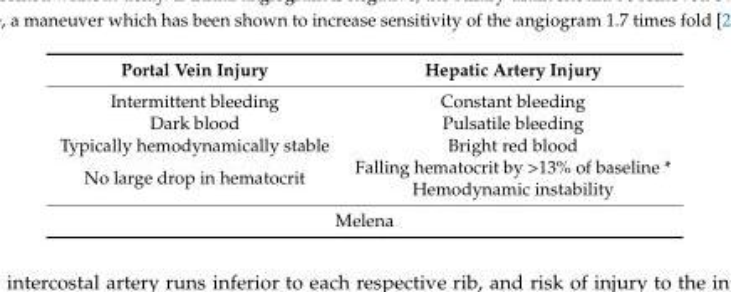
<table><thead><tr><td>Portal Vein Injury</td><td>Hepatic Artery Injury</td></tr></thead><tbody><tr><td>Intermittent bleeding</td><td>Constant bleeding</td></tr><tr><td>Dark blood</td><td>Pulsatile bleeding</td></tr><tr><td>Typically hemodynamically stable</td><td>Bright red blood</td></tr><tr><td rowspan="2">No large drop in hematocrit</td><td>Falling hematocrit by &gt;13% of baseline *</td></tr><tr><td>Hemodynamic instability</td></tr><tr><td colspan="2">Melena</td></tr></tbody></table>